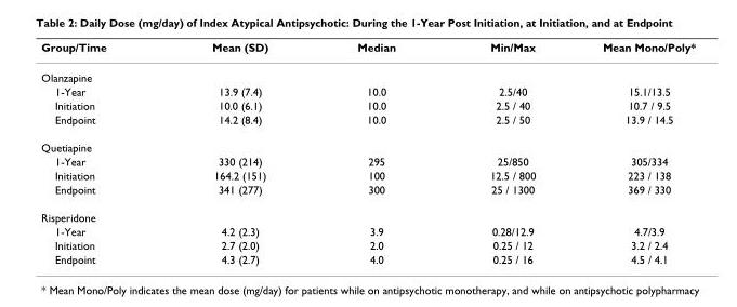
<table><thead><tr><td>Group/Time</td><td>Mean (SD)</td><td>Median</td><td>Min/Max</td><td>Mean Mono/Poly*</td></tr></thead><tbody><tr><td colspan="5">Olanzapine</td></tr><tr><td>1-Year</td><td>13.9 (7.4)</td><td>10.0</td><td>2.5/40</td><td>15.1/13.5</td></tr><tr><td>Initiation</td><td>10.0 (6.1)</td><td>10.0</td><td>2.5 / 40</td><td>10.7 / 9.5</td></tr><tr><td>Endpoint</td><td>14.2 (8.4)</td><td>10.0</td><td>2.5 / 50</td><td>13.9 / 14.5</td></tr><tr><td colspan="5">Quetiapine</td></tr><tr><td>1-Year</td><td>330 (214)</td><td>295</td><td>25/850</td><td>305/334</td></tr><tr><td>Initiation</td><td>164.2 (151)</td><td>100</td><td>12.5 / 800</td><td>223 / 138</td></tr><tr><td>Endpoint</td><td>341 (277)</td><td>300</td><td>25 / 1300</td><td>369 / 330</td></tr><tr><td colspan="5">Risperidone</td></tr><tr><td>1-Year</td><td>4.2 (2.3)</td><td>3.9</td><td>0.28/12.9</td><td>4.7/3.9</td></tr><tr><td>Initiation</td><td>2.7 (2.0)</td><td>2.0</td><td>0.25 / 12</td><td>3.2 / 2.4</td></tr><tr><td>Endpoint</td><td>4.3 (2.7)</td><td>4.0</td><td>0.25 / 16</td><td>4.5 / 4.1</td></tr></tbody></table>